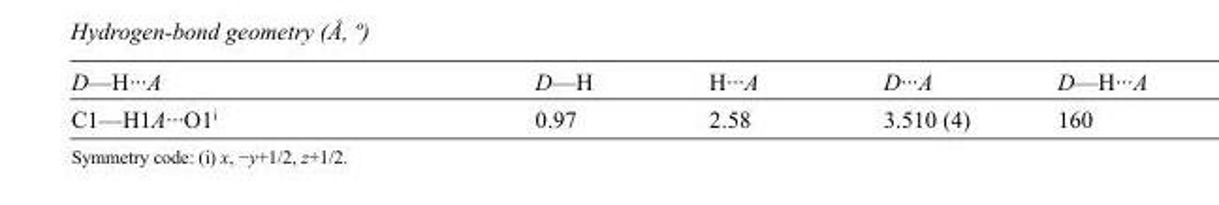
<table><tbody><tr><td>D—H···A</td><td>D—H</td><td>H···A</td><td>D···A</td><td>D—H···A</td></tr><tr><td>C1—H1A···O1<sup>i</sup></td><td>0.97</td><td>2.58</td><td>3.510 (4)</td><td>160</td></tr></tbody></table>